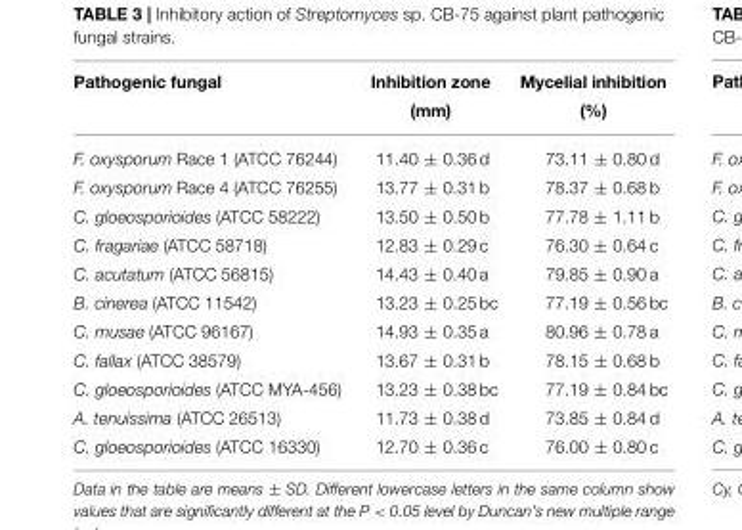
<table><thead><tr><td>Pathogenic fungal</td><td>Inhibition zone (mm)</td><td>Mycelial inhibition (%)</td></tr></thead><tbody><tr><td>F. oxysporum Race 1 (ATCC 76244)</td><td>11.40 ± 0.36 d</td><td>73.11 ± 0.80 d</td></tr><tr><td>F. oxysporum Race 4 (ATCC 76255)</td><td>13.77 ± 0.31 b</td><td>78.37 ± 0.68 b</td></tr><tr><td>C. gloeosporioides (ATCC 58222)</td><td>13.50 ± 0.50 b</td><td>77.78 ± 1.11 b</td></tr><tr><td>C. fragariae (ATCC 58718)</td><td>12.83 ± 0.29 c</td><td>76.30 ± 0.64 c</td></tr><tr><td>C. acutatum (ATCC 56815)</td><td>14.43 ± 0.40 a</td><td>79.85 ± 0.90 a</td></tr><tr><td>B. cinerea (ATCC 11542)</td><td>13.23 ± 0.25 bc</td><td>77.19 ± 0.56 bc</td></tr><tr><td>C. musae (ATCC 96167)</td><td>14.93 ± 0.35 a</td><td>80.96 ± 0.78 a</td></tr><tr><td>C. fallax (ATCC 38579)</td><td>13.67 ± 0.31 b</td><td>78.15 ± 0.68 b</td></tr><tr><td>C. gloeosporioides (ATCC MYA-456)</td><td>13.23 ± 0.38 bc</td><td>77.19 ± 0.84 bc</td></tr><tr><td>A. tenuissima (ATCC 26513)</td><td>11.73 ± 0.38 d</td><td>73.85 ± 0.84 d</td></tr><tr><td>C. gloeosporioides (ATCC 16330)</td><td>12.70 ± 0.36 c</td><td>76.00 ± 0.80 c</td></tr></tbody></table>